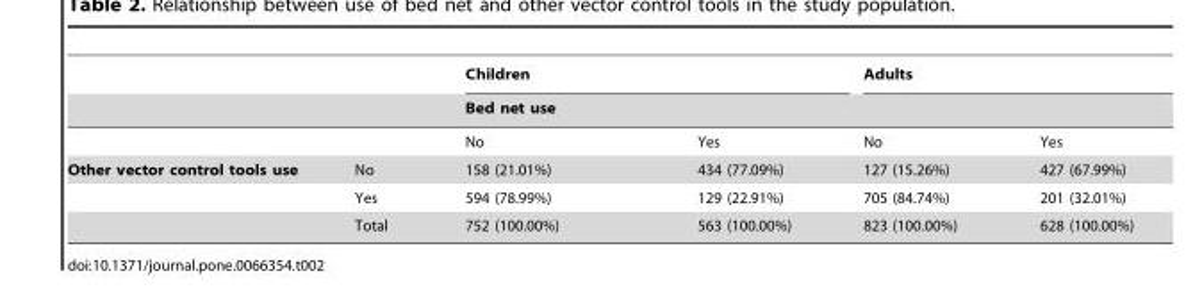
<table><thead><tr><td rowspan="3"></td><td rowspan="3"></td><td colspan="2">Children</td><td colspan="2">Adults</td></tr><tr><td colspan="4">Bed net use</td></tr><tr><td>No</td><td>Yes</td><td>No</td><td>Yes</td></tr></thead><tbody><tr><td rowspan="3">Other vector control tools use</td><td>No</td><td>158 (21.01%)</td><td>434 (77.09%)</td><td>127 (15.26%)</td><td>427 (67.99%)</td></tr><tr><td>Yes</td><td>594 (78.99%)</td><td>129 (22.91%)</td><td>705 (84.74%)</td><td>201 (32.01%)</td></tr><tr><td>Total</td><td>752 (100.00%)</td><td>563 (100.00%)</td><td>823 (100.00%)</td><td>628 (100.00%)</td></tr></tbody></table>